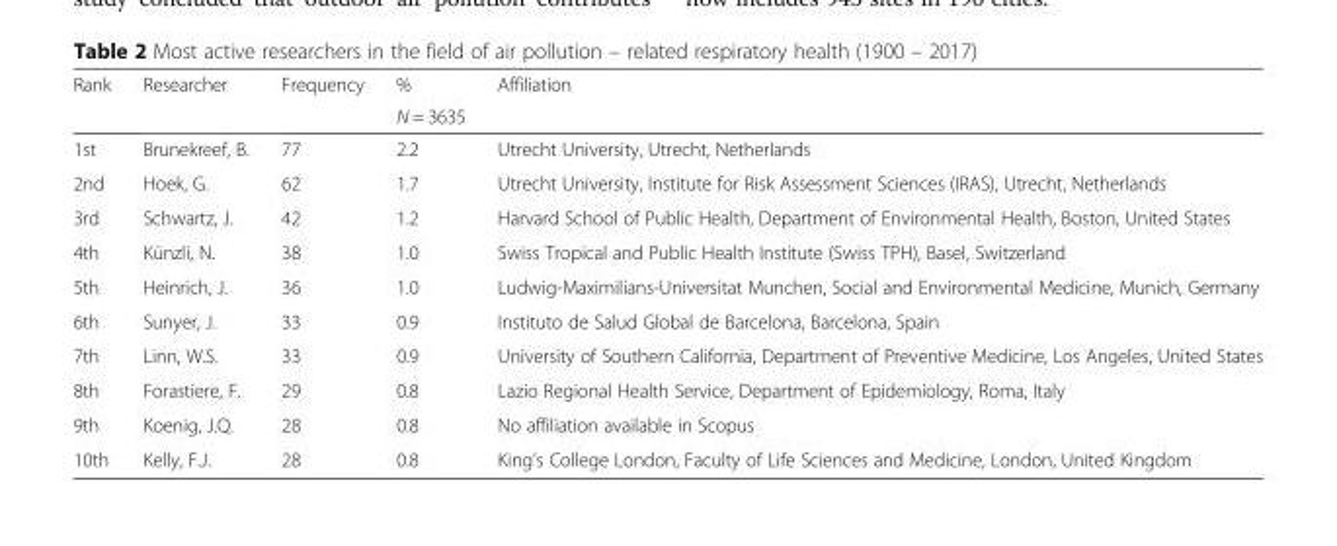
<table><thead><tr><td rowspan="2">Rank</td><td rowspan="2">Researcher</td><td rowspan="2">Frequency</td><td rowspan="2">% N = 3635</td><td rowspan="2">Affiliation</td></tr><tr></tr></thead><tbody><tr><td>1st</td><td>Brunekreef, B.</td><td>77</td><td>2.2</td><td>Utrecht University, Utrecht, Netherlands</td></tr><tr><td>2nd</td><td>Hoek, G.</td><td>62</td><td>1.7</td><td>Utrecht University, Institute for Risk Assessment Sciences (IRAS), Utrecht, Netherlands</td></tr><tr><td>3rd</td><td>Schwartz, J.</td><td>42</td><td>1.2</td><td>Harvard School of Public Health, Department of Environmental Health, Boston, United States</td></tr><tr><td>4th</td><td>Künzli, N.</td><td>38</td><td>1.0</td><td>Swiss Tropical and Public Health Institute (Swiss TPH), Basel, Switzerland</td></tr><tr><td>5th</td><td>Heinrich, J.</td><td>36</td><td>1.0</td><td>Ludwig-Maximilians-Universitat Munchen, Social and Environmental Medicine, Munich, Germany</td></tr><tr><td>6th</td><td>Sunyer, J.</td><td>33</td><td>0.9</td><td>Instituto de Salud Global de Barcelona, Barcelona, Spain</td></tr><tr><td>7th</td><td>Linn, W.S.</td><td>33</td><td>0.9</td><td>University of Southern California, Department of Preventive Medicine, Los Angeles, United States</td></tr><tr><td>8th</td><td>Forastiere, F.</td><td>29</td><td>0.8</td><td>Lazio Regional Health Service, Department of Epidemiology, Roma, Italy</td></tr><tr><td>9th</td><td>Koenig, J.Q.</td><td>28</td><td>0.8</td><td>No affiliation available in Scopus</td></tr><tr><td>10th</td><td>Kelly, F.J.</td><td>28</td><td>0.8</td><td>King’s College London, Faculty of Life Sciences and Medicine, London, United Kingdom</td></tr></tbody></table>